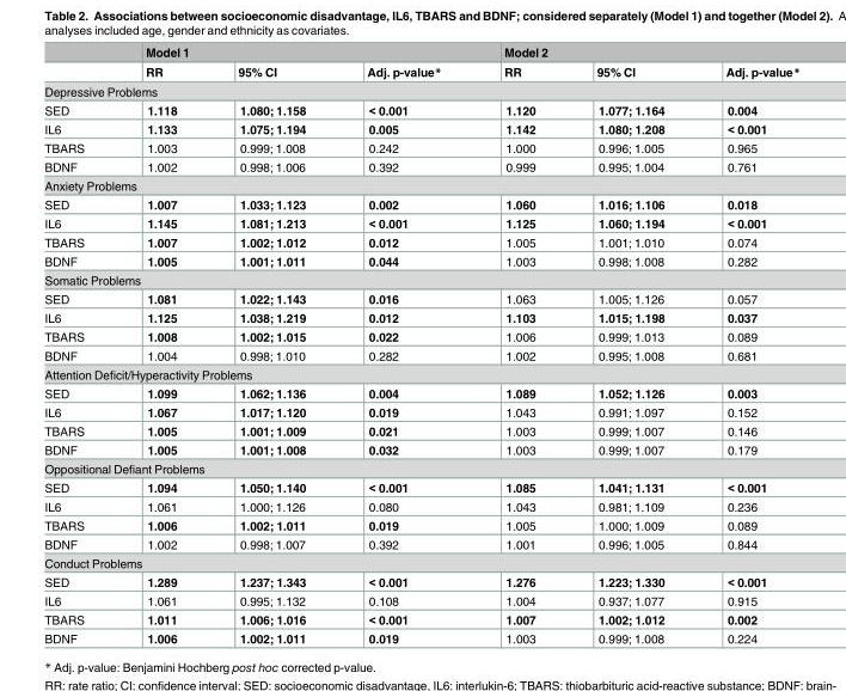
<table><thead><tr><td rowspan="2"></td><td colspan="3">Model 1</td><td colspan="3">Model 2</td></tr><tr><td>RR</td><td>95% CI</td><td>Adj. p-value*</td><td>RR</td><td>95% CI</td><td>Adj. p-value*</td></tr></thead><tbody><tr><td colspan="7">Depressive Problems</td></tr><tr><td>SED</td><td>1.118</td><td>1.080; 1.158</td><td>&lt; 0.001</td><td>1.120</td><td>1.077; 1.164</td><td>0.004</td></tr><tr><td>IL6</td><td>1.133</td><td>1.075; 1.194</td><td>0.005</td><td>1.142</td><td>1.080; 1.208</td><td>&lt; 0.001</td></tr><tr><td>TBARS</td><td>1.003</td><td>0.999; 1.008</td><td>0.242</td><td>1.000</td><td>0.996; 1.005</td><td>0.965</td></tr><tr><td>BDNF</td><td>1.002</td><td>0.998; 1.006</td><td>0.392</td><td>0.999</td><td>0.995; 1.004</td><td>0.761</td></tr><tr><td colspan="7">Anxiety Problems</td></tr><tr><td>SED</td><td>1.007</td><td>1.033; 1.123</td><td>0.002</td><td>1.060</td><td>1.016; 1.106</td><td>0.018</td></tr><tr><td>IL6</td><td>1.145</td><td>1.081; 1.213</td><td>&lt; 0.001</td><td>1.125</td><td>1.060; 1.194</td><td>&lt; 0.001</td></tr><tr><td>TBARS</td><td>1.007</td><td>1.002; 1.012</td><td>0.012</td><td>1.005</td><td>1.001; 1.010</td><td>0.074</td></tr><tr><td>BDNF</td><td>1.005</td><td>1.001; 1.011</td><td>0.044</td><td>1.003</td><td>0.998; 1.008</td><td>0.282</td></tr><tr><td colspan="7">Somatic Problems</td></tr><tr><td>SED</td><td>1.081</td><td>1.022; 1.143</td><td>0.016</td><td>1.063</td><td>1.005; 1.126</td><td>0.057</td></tr><tr><td>IL6</td><td>1.125</td><td>1.038; 1.219</td><td>0.012</td><td>1.103</td><td>1.015; 1.198</td><td>0.037</td></tr><tr><td>TBARS</td><td>1.008</td><td>1.002; 1.015</td><td>0.022</td><td>1.006</td><td>0.999; 1.013</td><td>0.089</td></tr><tr><td>BDNF</td><td>1.004</td><td>0.998; 1.010</td><td>0.282</td><td>1.002</td><td>0.995; 1.008</td><td>0.681</td></tr><tr><td colspan="7">Attention Deficit/Hyperactivity Problems</td></tr><tr><td>SED</td><td>1.099</td><td>1.062; 1.136</td><td>0.004</td><td>1.089</td><td>1.052; 1.126</td><td>0.003</td></tr><tr><td>IL6</td><td>1.067</td><td>1.017; 1.120</td><td>0.019</td><td>1.043</td><td>0.991; 1.097</td><td>0.152</td></tr><tr><td>TBARS</td><td>1.005</td><td>1.001; 1.009</td><td>0.021</td><td>1.003</td><td>0.999; 1.007</td><td>0.146</td></tr><tr><td>BDNF</td><td>1.005</td><td>1.001; 1.008</td><td>0.032</td><td>1.003</td><td>0.999; 1.007</td><td>0.179</td></tr><tr><td colspan="7">Oppositional Defiant Problems</td></tr><tr><td>SED</td><td>1.094</td><td>1.050; 1.140</td><td>&lt; 0.001</td><td>1.085</td><td>1.041; 1.131</td><td>&lt; 0.001</td></tr><tr><td>IL6</td><td>1.061</td><td>1.000; 1.126</td><td>0.080</td><td>1.043</td><td>0.981; 1.109</td><td>0.236</td></tr><tr><td>TBARS</td><td>1.006</td><td>1.002; 1.011</td><td>0.019</td><td>1.005</td><td>1.000; 1.009</td><td>0.089</td></tr><tr><td>BDNF</td><td>1.002</td><td>0.998; 1.007</td><td>0.392</td><td>1.001</td><td>0.996; 1.005</td><td>0.844</td></tr><tr><td colspan="7">Conduct Problems</td></tr><tr><td>SED</td><td>1.289</td><td>1.237; 1.343</td><td>&lt; 0.001</td><td>1.276</td><td>1.223; 1.330</td><td>&lt; 0.001</td></tr><tr><td>IL6</td><td>1.061</td><td>0.995; 1.132</td><td>0.108</td><td>1.004</td><td>0.937; 1.077</td><td>0.915</td></tr><tr><td>TBARS</td><td>1.011</td><td>1.006; 1.016</td><td>&lt; 0.001</td><td>1.007</td><td>1.002; 1.012</td><td>0.002</td></tr><tr><td>BDNF</td><td>1.006</td><td>1.002; 1.011</td><td>0.019</td><td>1.003</td><td>0.999; 1.008</td><td>0.224</td></tr></tbody></table>